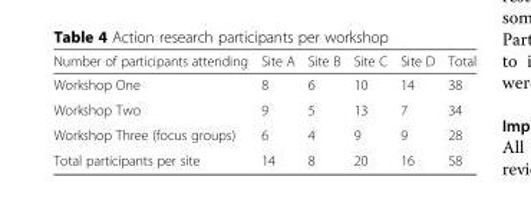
<table><thead><tr><td>Number of participants attending</td><td>Site A</td><td>Site B</td><td>Site C</td><td>Site D</td><td>Total</td></tr></thead><tbody><tr><td>Workshop One</td><td>8</td><td>6</td><td>10</td><td>14</td><td>38</td></tr><tr><td>Workshop Two</td><td>9</td><td>5</td><td>13</td><td>7</td><td>34</td></tr><tr><td>Workshop Three (focus groups)</td><td>6</td><td>4</td><td>9</td><td>9</td><td>28</td></tr><tr><td>Total participants per site</td><td>14</td><td>8</td><td>20</td><td>16</td><td>58</td></tr></tbody></table>